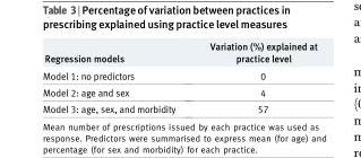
<table><thead><tr><td>Regression models</td><td>Variation (%) explained at practice level</td></tr></thead><tbody><tr><td>Model 1: no predictors</td><td>0</td></tr><tr><td>Model 2: age and sex</td><td>4</td></tr><tr><td>Model 3: age, sex, and morbidity</td><td>57</td></tr></tbody></table>